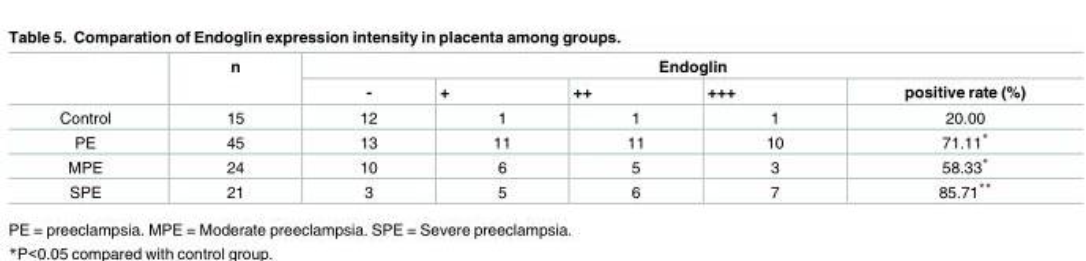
<table><thead><tr><td rowspan="2"></td><td rowspan="2">n</td><td colspan="5">Endoglin</td></tr><tr><td>-</td><td>+</td><td>++</td><td>+++</td><td>positive rate (%)</td></tr></thead><tbody><tr><td>Control</td><td>15</td><td>12</td><td>1</td><td>1</td><td>1</td><td>20.00</td></tr><tr><td>PE</td><td>45</td><td>13</td><td>11</td><td>11</td><td>10</td><td>71.11*</td></tr><tr><td>MPE</td><td>24</td><td>10</td><td>6</td><td>5</td><td>3</td><td>58.33*</td></tr><tr><td>SPE</td><td>21</td><td>3</td><td>5</td><td>6</td><td>7</td><td>85.71**</td></tr></tbody></table>